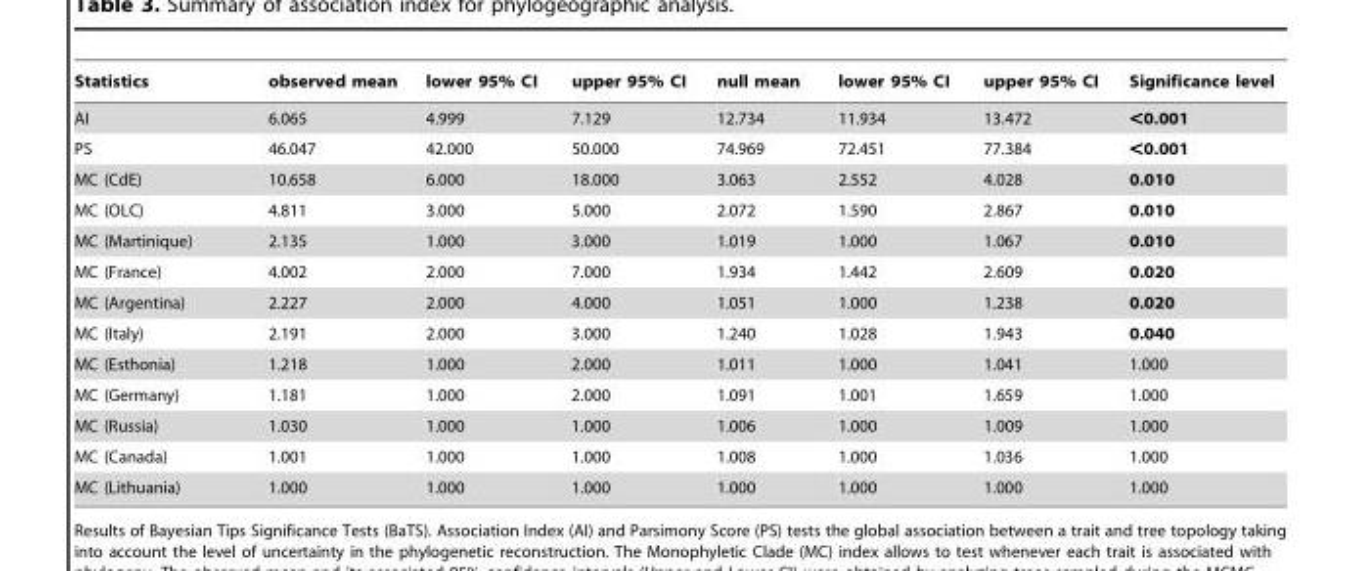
<table><thead><tr><td>Statistics</td><td>observed mean</td><td>lower 95% CI</td><td>upper 95% CI</td><td>null mean</td><td>lower 95% CI</td><td>upper 95% CI</td><td>Significance level</td></tr></thead><tbody><tr><td>AI</td><td>6.065</td><td>4.999</td><td>7.129</td><td>12.734</td><td>11.934</td><td>13.472</td><td>&lt;0.001</td></tr><tr><td>PS</td><td>46.047</td><td>42.000</td><td>50.000</td><td>74.969</td><td>72.451</td><td>77.384</td><td>&lt;0.001</td></tr><tr><td>MC (CdE)</td><td>10.658</td><td>6.000</td><td>18.000</td><td>3.063</td><td>2.552</td><td>4.028</td><td>0.010</td></tr><tr><td>MC (OLC)</td><td>4.811</td><td>3.000</td><td>5.000</td><td>2.072</td><td>1.590</td><td>2.867</td><td>0.010</td></tr><tr><td>MC (Martinique)</td><td>2.135</td><td>1.000</td><td>3.000</td><td>1.019</td><td>1.000</td><td>1.067</td><td>0.010</td></tr><tr><td>MC (France)</td><td>4.002</td><td>2.000</td><td>7.000</td><td>1.934</td><td>1.442</td><td>2.609</td><td>0.020</td></tr><tr><td>MC (Argentina)</td><td>2.227</td><td>2.000</td><td>4.000</td><td>1.051</td><td>1.000</td><td>1.238</td><td>0.020</td></tr><tr><td>MC (Italy)</td><td>2.191</td><td>2.000</td><td>3.000</td><td>1.240</td><td>1.028</td><td>1.943</td><td>0.040</td></tr><tr><td>MC (Esthonia)</td><td>1.218</td><td>1.000</td><td>2.000</td><td>1.011</td><td>1.000</td><td>1.041</td><td>1.000</td></tr><tr><td>MC (Germany)</td><td>1.181</td><td>1.000</td><td>2.000</td><td>1.091</td><td>1.001</td><td>1.659</td><td>1.000</td></tr><tr><td>MC (Russia)</td><td>1.030</td><td>1.000</td><td>1.000</td><td>1.006</td><td>1.000</td><td>1.009</td><td>1.000</td></tr><tr><td>MC (Canada)</td><td>1.001</td><td>1.000</td><td>1.000</td><td>1.008</td><td>1.000</td><td>1.036</td><td>1.000</td></tr><tr><td>MC (Lithuania)</td><td>1.000</td><td>1.000</td><td>1.000</td><td>1.000</td><td>1.000</td><td>1.000</td><td>1.000</td></tr></tbody></table>